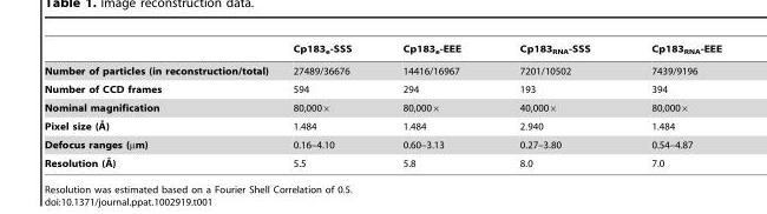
<table><thead><tr><td></td><td>Cp183<sub>e</sub>-SSS</td><td>Cp183<sub>e</sub>-EEE</td><td>Cp183<sub>RNA</sub>-SSS</td><td>Cp183<sub>RNA</sub>-EEE</td></tr></thead><tbody><tr><td>Number of particles (in reconstruction/total)</td><td>27489/36676</td><td>14416/16967</td><td>7201/10502</td><td>7439/9196</td></tr><tr><td>Number of CCD frames</td><td>594</td><td>294</td><td>193</td><td>394</td></tr><tr><td>Nominal magnification</td><td>80,000×</td><td>80,000×</td><td>40,000×</td><td>80,000×</td></tr><tr><td>Pixel size (A˚ )</td><td>1.484</td><td>1.484</td><td>2.940</td><td>1.484</td></tr><tr><td>Defocus ranges (µm)</td><td>0.16–4.10</td><td>0.60–3.13</td><td>0.27–3.80</td><td>0.54–4.87</td></tr><tr><td>Resolution (A˚ )</td><td>5.5</td><td>5.8</td><td>8.0</td><td>7.0</td></tr></tbody></table>